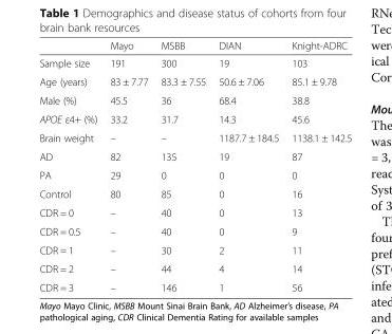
<table><thead><tr><td></td><td>Mayo</td><td>MSBB</td><td>DIAN</td><td>Knight-ADRC</td></tr></thead><tbody><tr><td>Sample size</td><td>191</td><td>300</td><td>19</td><td>103</td></tr><tr><td>Age (years)</td><td>83 ± 7.77</td><td>83.3 ± 7.55</td><td>50.6 ± 7.06</td><td>85.1 ± 9.78</td></tr><tr><td>Male (%)</td><td>45.5</td><td>36</td><td>68.4</td><td>38.8</td></tr><tr><td>APOE ε4+ (%)</td><td>33.2</td><td>31.7</td><td>14.3</td><td>45.6</td></tr><tr><td>Brain weight</td><td>–</td><td>–</td><td>1187.7 ± 184.5</td><td>1138.1 ± 142.5</td></tr><tr><td>AD</td><td>82</td><td>135</td><td>19</td><td>87</td></tr><tr><td>PA</td><td>29</td><td>0</td><td>0</td><td>0</td></tr><tr><td>Control</td><td>80</td><td>85</td><td>0</td><td>16</td></tr><tr><td>CDR = 0</td><td>–</td><td>40</td><td>0</td><td>13</td></tr><tr><td>CDR = 0.5</td><td>–</td><td>40</td><td>0</td><td>9</td></tr><tr><td>CDR = 1</td><td>–</td><td>30</td><td>2</td><td>11</td></tr><tr><td>CDR = 2</td><td>–</td><td>44</td><td>4</td><td>14</td></tr><tr><td>CDR = 3</td><td>–</td><td>146</td><td>1</td><td>56</td></tr></tbody></table>